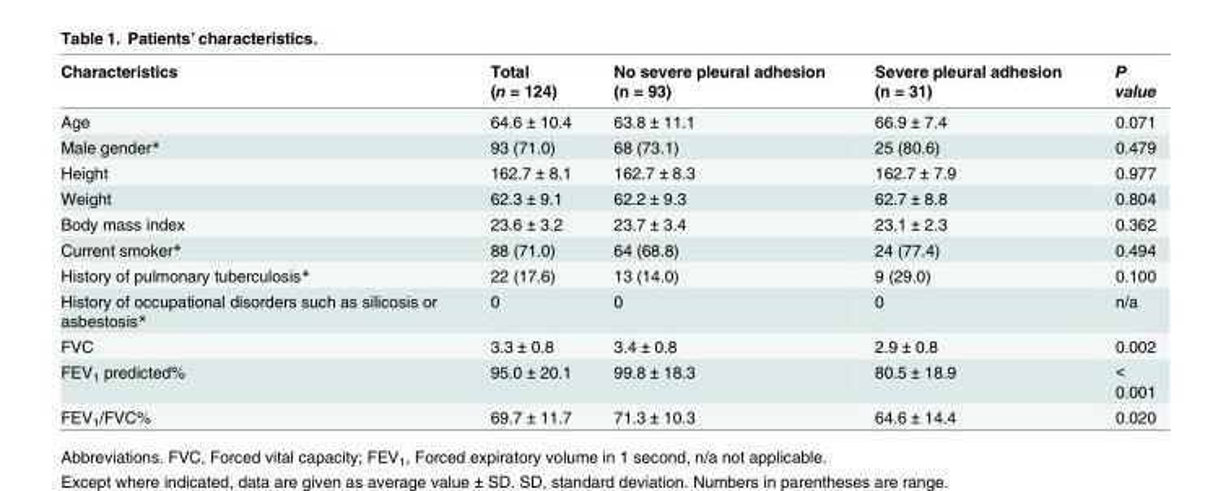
<table><thead><tr><td>Characteristics</td><td>Total (n = 124)</td><td>No severe pleural adhesion (n = 93)</td><td>Severe pleural adhesion (n = 31)</td><td>P value</td></tr></thead><tbody><tr><td>Age</td><td>64.6 ± 10.4</td><td>63.8 ± 11.1</td><td>66.9 ± 7.4</td><td>0.071</td></tr><tr><td>Male gender*</td><td>93 (71.0)</td><td>68 (73.1)</td><td>25 (80.6)</td><td>0.479</td></tr><tr><td>Height</td><td>162.7 ± 8.1</td><td>162.7 ± 8.3</td><td>162.7 ± 7.9</td><td>0.977</td></tr><tr><td>Weight</td><td>62.3 ± 9.1</td><td>62.2 ± 9.3</td><td>62.7 ± 8.8</td><td>0.804</td></tr><tr><td>Body mass index</td><td>23.6 ± 3.2</td><td>23.7 ± 3.4</td><td>23.1 ± 2.3</td><td>0.362</td></tr><tr><td>Current smoker*</td><td>88 (71.0)</td><td>64 (68.8)</td><td>24 (77.4)</td><td>0.494</td></tr><tr><td>History of pulmonary tuberculosis*</td><td>22 (17.6)</td><td>13 (14.0)</td><td>9 (29.0)</td><td>0.100</td></tr><tr><td>History of occupational disorders such as silicosis or asbestosis*</td><td>0</td><td>0</td><td>0</td><td>n/a</td></tr><tr><td>FVC</td><td>3.3 ± 0.8</td><td>3.4 ± 0.8</td><td>2.9 ± 0.8</td><td>0.002</td></tr><tr><td>FEV<sub>1</sub> predicted%</td><td>95.0 ± 20.1</td><td>99.8 ± 18.3</td><td>80.5 ± 18.9</td><td>&lt; 0.001</td></tr><tr><td>FEV<sub>1</sub>/FVC%</td><td>69.7 ± 11.7</td><td>71.3 ± 10.3</td><td>64.6 ± 14.4</td><td>0.020</td></tr></tbody></table>